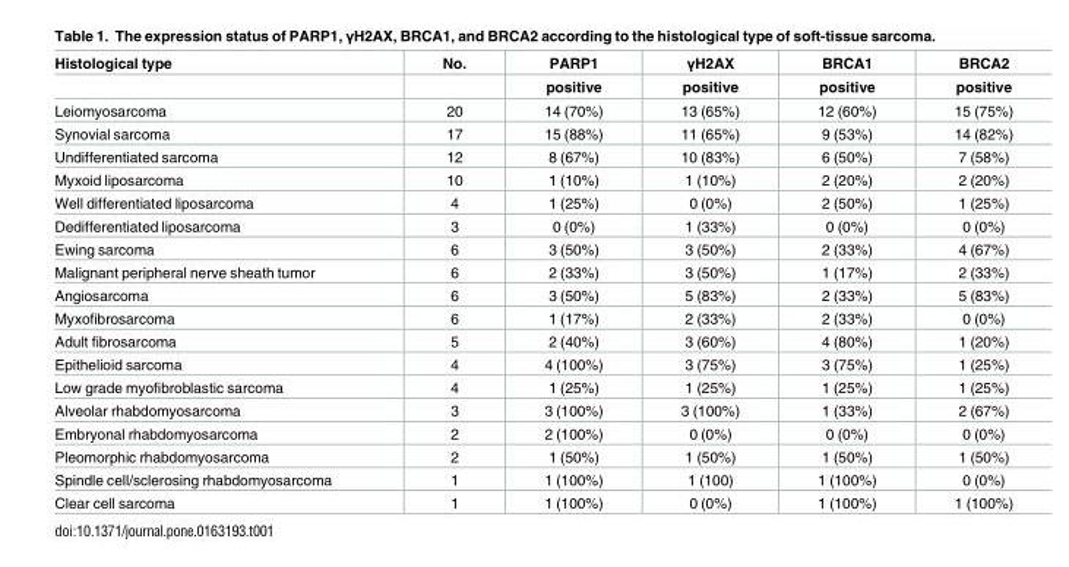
<table><thead><tr><td rowspan="2">Histological type</td><td rowspan="2">No.</td><td rowspan="2">PARP1 positive</td><td rowspan="2">γH2AX positive</td><td rowspan="2">BRCA1 positive</td><td rowspan="2">BRCA2 positive</td></tr><tr></tr></thead><tbody><tr><td>Leiomyosarcoma</td><td>20</td><td>14 (70%)</td><td>13 (65%)</td><td>12 (60%)</td><td>15 (75%)</td></tr><tr><td>Synovial sarcoma</td><td>17</td><td>15 (88%)</td><td>11 (65%)</td><td>9 (53%)</td><td>14 (82%)</td></tr><tr><td>Undifferentiated sarcoma</td><td>12</td><td>8 (67%)</td><td>10 (83%)</td><td>6 (50%)</td><td>7 (58%)</td></tr><tr><td>Myxoid liposarcoma</td><td>10</td><td>1 (10%)</td><td>1 (10%)</td><td>2 (20%)</td><td>2 (20%)</td></tr><tr><td>Well differentiated liposarcoma</td><td>4</td><td>1 (25%)</td><td>0 (0%)</td><td>2 (50%)</td><td>1 (25%)</td></tr><tr><td>Dedifferentiated liposarcoma</td><td>3</td><td>0 (0%)</td><td>1 (33%)</td><td>0 (0%)</td><td>0 (0%)</td></tr><tr><td>Ewing sarcoma</td><td>6</td><td>3 (50%)</td><td>3 (50%)</td><td>2 (33%)</td><td>4 (67%)</td></tr><tr><td>Malignant peripheral nerve sheath tumor</td><td>6</td><td>2 (33%)</td><td>3 (50%)</td><td>1 (17%)</td><td>2 (33%)</td></tr><tr><td>Angiosarcoma</td><td>6</td><td>3 (50%)</td><td>5 (83%)</td><td>2 (33%)</td><td>5 (83%)</td></tr><tr><td>Myxofibrosarcoma</td><td>6</td><td>1 (17%)</td><td>2 (33%)</td><td>2 (33%)</td><td>0 (0%)</td></tr><tr><td>Adult fibrosarcoma</td><td>5</td><td>2 (40%)</td><td>3 (60%)</td><td>4 (80%)</td><td>1 (20%)</td></tr><tr><td>Epithelioid sarcoma</td><td>4</td><td>4 (100%)</td><td>3 (75%)</td><td>3 (75%)</td><td>1 (25%)</td></tr><tr><td>Low grade myofibroblastic sarcoma</td><td>4</td><td>1 (25%)</td><td>1 (25%)</td><td>1 (25%)</td><td>1 (25%)</td></tr><tr><td>Alveolar rhabdomyosarcoma</td><td>3</td><td>3 (100%)</td><td>3 (100%)</td><td>1 (33%)</td><td>2 (67%)</td></tr><tr><td>Embryonal rhabdomyosarcoma</td><td>2</td><td>2 (100%)</td><td>0 (0%)</td><td>0 (0%)</td><td>0 (0%)</td></tr><tr><td>Pleomorphic rhabdomyosarcoma</td><td>2</td><td>1 (50%)</td><td>1 (50%)</td><td>1 (50%)</td><td>1 (50%)</td></tr><tr><td>Spindle cell/sclerosing rhabdomyosarcoma</td><td>1</td><td>1 (100%)</td><td>1 (100)</td><td>1 (100%)</td><td>0 (0%)</td></tr><tr><td>Clear cell sarcoma</td><td>1</td><td>1 (100%)</td><td>0 (0%)</td><td>1 (100%)</td><td>1 (100%)</td></tr></tbody></table>